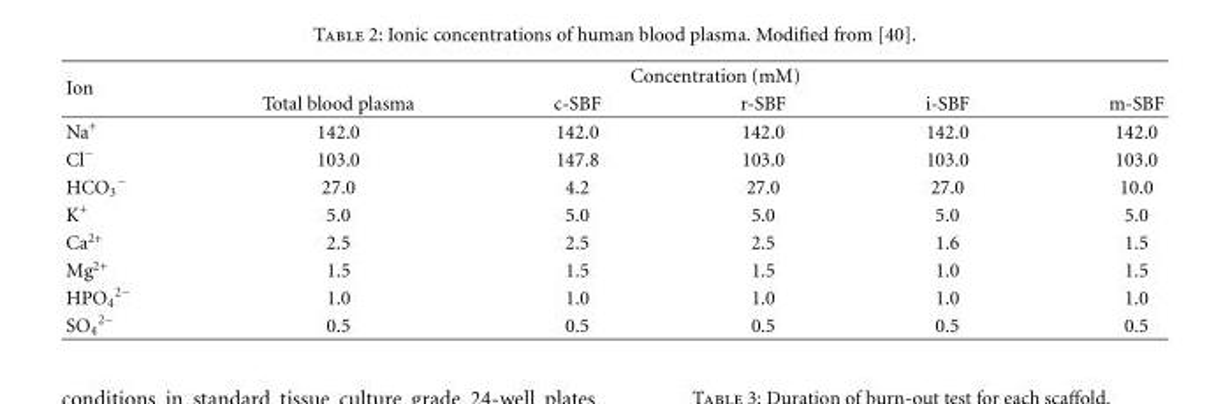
<table><thead><tr><td rowspan="2">Ion</td><td colspan="5">Concentration (mM)</td></tr><tr><td>Total blood plasma</td><td>c-SBF</td><td>r-SBF</td><td>i-SBF</td><td>m-SBF</td></tr></thead><tbody><tr><td>Na<sup>+</sup></td><td>142.0</td><td>142.0</td><td>142.0</td><td>142.0</td><td>142.0</td></tr><tr><td>Cl<sup>−</sup></td><td>103.0</td><td>147.8</td><td>103.0</td><td>103.0</td><td>103.0</td></tr><tr><td>HCO<sub>3</sub> <sup>−</sup></td><td>27.0</td><td>4.2</td><td>27.0</td><td>27.0</td><td>10.0</td></tr><tr><td>K<sup>+</sup></td><td>5.0</td><td>5.0</td><td>5.0</td><td>5.0</td><td>5.0</td></tr><tr><td>Ca<sup>2+</sup></td><td>2.5</td><td>2.5</td><td>2.5</td><td>1.6</td><td>1.5</td></tr><tr><td>Mg<sup>2+</sup></td><td>1.5</td><td>1.5</td><td>1.5</td><td>1.0</td><td>1.5</td></tr><tr><td>HPO<sub>4</sub> <sup>2−</sup></td><td>1.0</td><td>1.0</td><td>1.0</td><td>1.0</td><td>1.0</td></tr><tr><td>SO<sub>4</sub> <sup>2−</sup></td><td>0.5</td><td>0.5</td><td>0.5</td><td>0.5</td><td>0.5</td></tr></tbody></table>